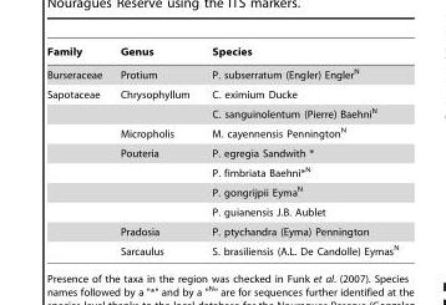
<table><thead><tr><td>Family</td><td>Genus</td><td>Species</td></tr></thead><tbody><tr><td>Burseraceae</td><td>Protium</td><td>P. subserratum (Engler) Engler<sup>N</sup></td></tr><tr><td rowspan="9">Sapotaceae</td><td>Chrysophyllum</td><td>C. eximium Ducke</td></tr><tr><td></td><td>C. sanguinolentum (Pierre) Baehni<sup>N</sup></td></tr><tr><td>Micropholis</td><td>M. cayennensis Pennington<sup>N</sup></td></tr><tr><td>Pouteria</td><td>P. egregia Sandwith *</td></tr><tr><td></td><td>P. fimbriata Baehni*<sup>N</sup></td></tr><tr><td></td><td>P. gongrijpii Eyma<sup>N</sup></td></tr><tr><td></td><td>P. guianensis J.B. Aublet</td></tr><tr><td>Pradosia</td><td>P. ptychandra (Eyma) Pennington</td></tr><tr><td>Sarcaulus</td><td>S. brasiliensis (A.L. De Candolle) Eymas<sup>N</sup></td></tr></tbody></table>